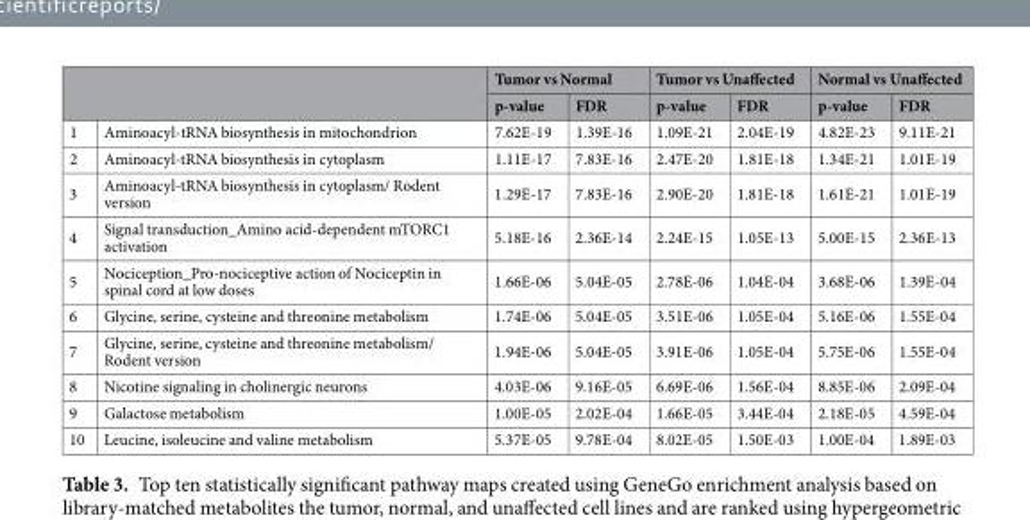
<table><thead><tr><td rowspan="2"></td><td rowspan="2"></td><td colspan="2">Tumor vs Normal</td><td colspan="2">Tumor vs Unaffected</td><td colspan="2">Normal vs Unaffected</td></tr><tr><td>p-value</td><td>FDR</td><td>p-value</td><td>FDR</td><td>p-value</td><td>FDR</td></tr></thead><tbody><tr><td>1</td><td>Aminoacyl-tRNA biosynthesis in mitochondrion</td><td>7.62E-19</td><td>1.39E-16</td><td>1.09E-21</td><td>2.04E-19</td><td>4.82E-23</td><td>9.11E-21</td></tr><tr><td>2</td><td>Aminoacyl-tRNA biosynthesis in cytoplasm</td><td>1.11E-17</td><td>7.83E-16</td><td>2.47E-20</td><td>1.81E-18</td><td>1.34E-21</td><td>1.01E-19</td></tr><tr><td>3</td><td>Aminoacyl-tRNA biosynthesis in cytoplasm/ Rodent version</td><td>1.29E-17</td><td>7.83E-16</td><td>2.90E-20</td><td>1.81E-18</td><td>1.61E-21</td><td>1.01E-19</td></tr><tr><td>4</td><td>Signal transduction_Amino acid-dependent mTORC1 activation</td><td>5.18E-16</td><td>2.36E-14</td><td>2.24E-15</td><td>1.05E-13</td><td>5.00E-15</td><td>2.36E-13</td></tr><tr><td>5</td><td>Nociception_Pro-nociceptive action of Nociceptin in spinal cord at low doses</td><td>1.66E-06</td><td>5.04E-05</td><td>2.78E-06</td><td>1.04E-04</td><td>3.68E-06</td><td>1.39E-04</td></tr><tr><td>6</td><td>Glycine, serine, cysteine and threonine metabolism</td><td>1.74E-06</td><td>5.04E-05</td><td>3.51E-06</td><td>1.05E-04</td><td>5.16E-06</td><td>1.55E-04</td></tr><tr><td>7</td><td>Glycine, serine, cysteine and threonine metabolism/ Rodent version</td><td>1.94E-06</td><td>5.04E-05</td><td>3.91E-06</td><td>1.05E-04</td><td>5.75E-06</td><td>1.55E-04</td></tr><tr><td>8</td><td>Nicotine signaling in cholinergic neurons</td><td>4.03E-06</td><td>9.16E-05</td><td>6.69E-06</td><td>1.56E-04</td><td>8.85E-06</td><td>2.09E-04</td></tr><tr><td>9</td><td>Galactose metabolism</td><td>1.00E-05</td><td>2.02E-04</td><td>1.66E-05</td><td>3.44E-04</td><td>2.18E-05</td><td>4.59E-04</td></tr><tr><td>10</td><td>Leucine, isoleucine and valine metabolism</td><td>5.37E-05</td><td>9.78E-04</td><td>8.02E-05</td><td>1.50E-03</td><td>1.00E-04</td><td>1.89E-03</td></tr></tbody></table>